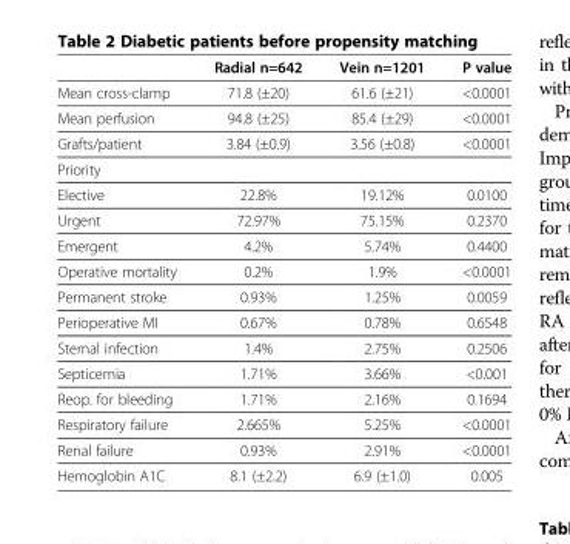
<table><thead><tr><td></td><td>Radial n=642</td><td>Vein n=1201</td><td>P value</td></tr></thead><tbody><tr><td>Mean cross-clamp</td><td>71.8 (±20)</td><td>61.6 (±21)</td><td>&lt;0.0001</td></tr><tr><td>Mean perfusion</td><td>94.8 (±25)</td><td>85.4 (±29)</td><td>&lt;0.0001</td></tr><tr><td>Grafts/patient</td><td>3.84 (±0.9)</td><td>3.56 (±0.8)</td><td>&lt;0.0001</td></tr><tr><td colspan="4">Priority</td></tr><tr><td>Elective</td><td>22.8%</td><td>19.12%</td><td>0.0100</td></tr><tr><td>Urgent</td><td>72.97%</td><td>75.15%</td><td>0.2370</td></tr><tr><td>Emergent</td><td>4.2%</td><td>5.74%</td><td>0.4400</td></tr><tr><td>Operative mortality</td><td>0.2%</td><td>1.9%</td><td>&lt;0.0001</td></tr><tr><td>Permanent stroke</td><td>0.93%</td><td>1.25%</td><td>0.0059</td></tr><tr><td>Perioperative MI</td><td>0.67%</td><td>0.78%</td><td>0.6548</td></tr><tr><td>Sternal infection</td><td>1.4%</td><td>2.75%</td><td>0.2506</td></tr><tr><td>Septicemia</td><td>1.71%</td><td>3.66%</td><td>&lt;0.001</td></tr><tr><td>Reop. for bleeding</td><td>1.71%</td><td>2.16%</td><td>0.1694</td></tr><tr><td>Respiratory failure</td><td>2.665%</td><td>5.25%</td><td>&lt;0.0001</td></tr><tr><td>Renal failure</td><td>0.93%</td><td>2.91%</td><td>&lt;0.0001</td></tr><tr><td>Hemoglobin A1C</td><td>8.1 (±2.2)</td><td>6.9 (±1.0)</td><td>0.005</td></tr></tbody></table>